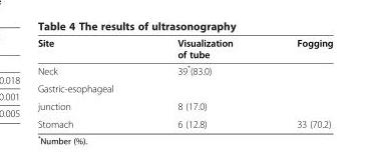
<table><thead><tr><td>Site</td><td>Visualization of tube</td><td>Fogging</td></tr></thead><tbody><tr><td>Neck</td><td>39*(83.0)</td><td></td></tr><tr><td colspan="3">Gastric-esophageal</td></tr><tr><td>junction</td><td>8 (17.0)</td><td></td></tr><tr><td>Stomach</td><td>6 (12.8)</td><td>33 (70.2)</td></tr></tbody></table>